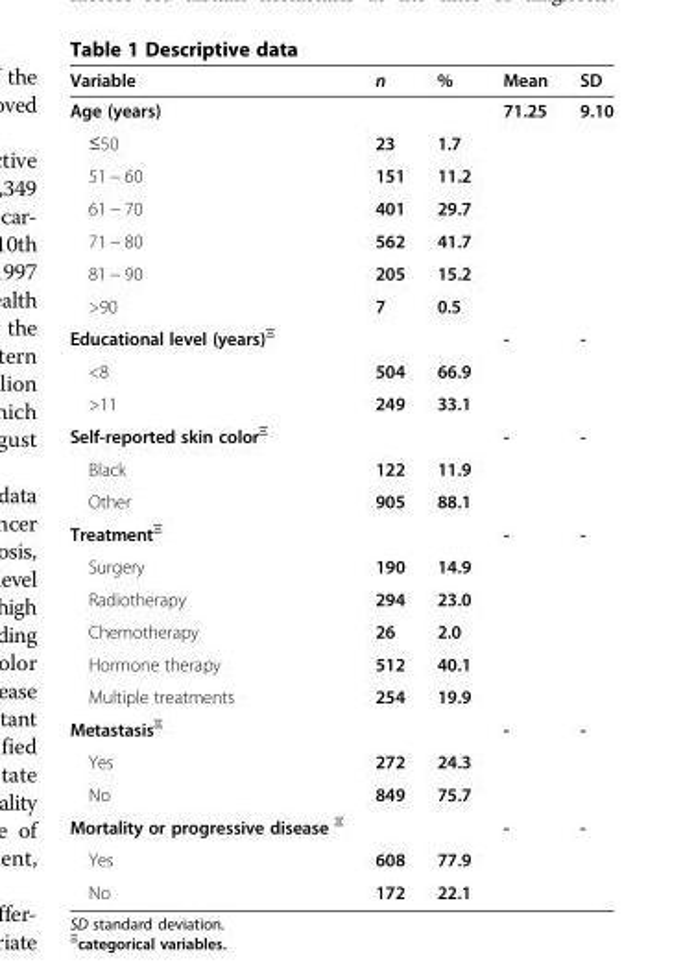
<table><thead><tr><td>Variable</td><td>n</td><td>%</td><td>Mean</td><td>SD</td></tr></thead><tbody><tr><td>Age (years)</td><td></td><td></td><td>71.25</td><td>9.10</td></tr><tr><td>≤50</td><td>23</td><td>1.7</td><td></td><td></td></tr><tr><td>51 − 60</td><td>151</td><td>11.2</td><td></td><td></td></tr><tr><td>61 − 70</td><td>401</td><td>29.7</td><td></td><td></td></tr><tr><td>71 − 80</td><td>562</td><td>41.7</td><td></td><td></td></tr><tr><td>81 − 90</td><td>205</td><td>15.2</td><td></td><td></td></tr><tr><td>&gt;90</td><td>7</td><td>0.5</td><td></td><td></td></tr><tr><td>Educational level (years)<sup>Ξ</sup></td><td></td><td></td><td>-</td><td>-</td></tr><tr><td>&lt;8</td><td>504</td><td>66.9</td><td></td><td></td></tr><tr><td>&gt;11</td><td>249</td><td>33.1</td><td></td><td></td></tr><tr><td>Self-reported skin color<sup>Ξ</sup></td><td></td><td></td><td>-</td><td>-</td></tr><tr><td>Black</td><td>122</td><td>11.9</td><td></td><td></td></tr><tr><td>Other</td><td>905</td><td>88.1</td><td></td><td></td></tr><tr><td>Treatment<sup>Ξ</sup></td><td></td><td></td><td>-</td><td>-</td></tr><tr><td>Surgery</td><td>190</td><td>14.9</td><td></td><td></td></tr><tr><td>Radiotherapy</td><td>294</td><td>23.0</td><td></td><td></td></tr><tr><td>Chemotherapy</td><td>26</td><td>2.0</td><td></td><td></td></tr><tr><td>Hormone therapy</td><td>512</td><td>40.1</td><td></td><td></td></tr><tr><td>Multiple treatments</td><td>254</td><td>19.9</td><td></td><td></td></tr><tr><td>Metastasis<sup>Ξ</sup></td><td></td><td></td><td>-</td><td>-</td></tr><tr><td>Yes</td><td>272</td><td>24.3</td><td></td><td></td></tr><tr><td>No</td><td>849</td><td>75.7</td><td></td><td></td></tr><tr><td>Mortality or progressive disease <sup>Ξ</sup></td><td></td><td></td><td>-</td><td>-</td></tr><tr><td>Yes</td><td>608</td><td>77.9</td><td></td><td></td></tr><tr><td>No</td><td>172</td><td>22.1</td><td></td><td></td></tr></tbody></table>